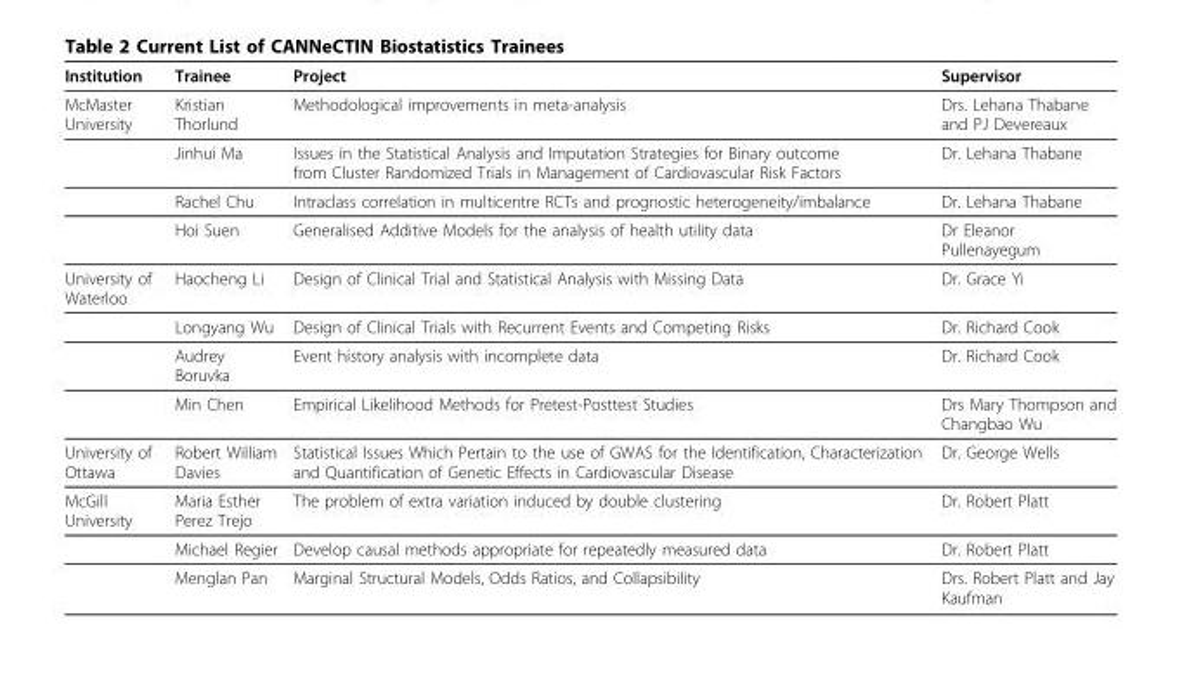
<table><thead><tr><td>Institution</td><td>Trainee</td><td>Project</td><td>Supervisor</td></tr></thead><tbody><tr><td rowspan="4">McMaster University</td><td>Kristian Thorlund</td><td>Methodological improvements in meta-analysis</td><td>Drs. Lehana Thabane and PJ Devereaux</td></tr><tr><td>Jinhui Ma</td><td>Issues in the Statistical Analysis and Imputation Strategies for Binary outcome from Cluster Randomized Trials in Management of Cardiovascular Risk Factors</td><td>Dr. Lehana Thabane</td></tr><tr><td>Rachel Chu</td><td>Intraclass correlation in multicentre RCTs and prognostic heterogeneity/imbalance</td><td>Dr. Lehana Thabane</td></tr><tr><td>Hoi Suen</td><td>Generalised Additive Models for the analysis of health utility data</td><td>Dr Eleanor Pullenayegum</td></tr><tr><td rowspan="4">University of Waterloo</td><td>Haocheng Li</td><td>Design of Clinical Trial and Statistical Analysis with Missing Data</td><td>Dr. Grace Yi</td></tr><tr><td>Longyang Wu</td><td>Design of Clinical Trials with Recurrent Events and Competing Risks</td><td>Dr. Richard Cook</td></tr><tr><td>Audrey Boruvka</td><td>Event history analysis with incomplete data</td><td>Dr. Richard Cook</td></tr><tr><td>Min Chen</td><td>Empirical Likelihood Methods for Pretest-Posttest Studies</td><td>Drs Mary Thompson and Changbao Wu</td></tr><tr><td>University of Ottawa</td><td>Robert William Davies</td><td>Statistical Issues Which Pertain to the use of GWAS for the Identification, Characterization and Quantification of Genetic Effects in Cardiovascular Disease</td><td>Dr. George Wells</td></tr><tr><td rowspan="3">McGill University</td><td>Maria Esther Perez Trejo</td><td>The problem of extra variation induced by double clustering</td><td>Dr. Robert Platt</td></tr><tr><td>Michael Regier</td><td>Develop causal methods appropriate for repeatedly measured data</td><td>Dr. Robert Platt</td></tr><tr><td>Menglan Pan</td><td>Marginal Structural Models, Odds Ratios, and Collapsibility</td><td>Drs. Robert Platt and Jay Kaufman</td></tr></tbody></table>